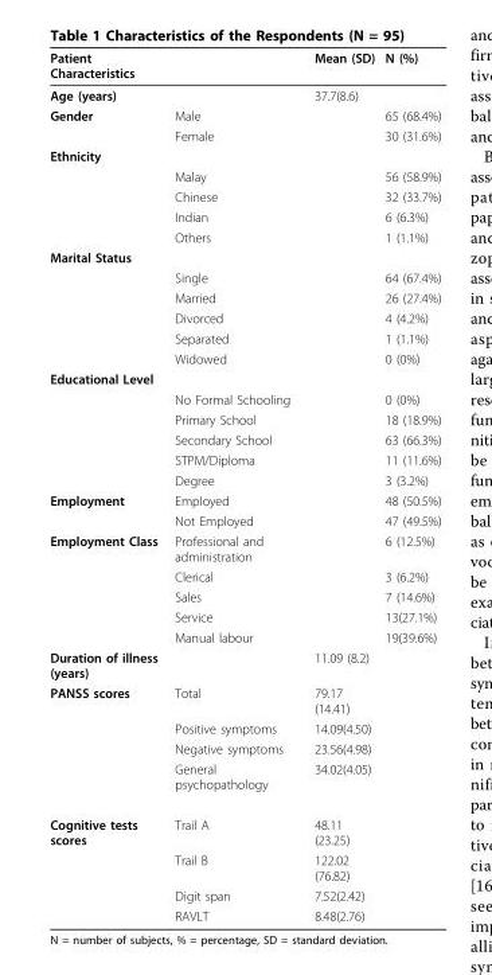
<table><thead><tr><td>Patient Characteristics</td><td></td><td>Mean (SD)</td><td>N (%)</td></tr></thead><tbody><tr><td>Age (years)</td><td></td><td>37.7(8.6)</td><td></td></tr><tr><td rowspan="2">Gender</td><td>Male</td><td></td><td>65 (68.4%)</td></tr><tr><td>Female</td><td></td><td>30 (31.6%)</td></tr><tr><td colspan="4">Ethnicity</td></tr><tr><td></td><td>Malay</td><td></td><td>56 (58.9%)</td></tr><tr><td></td><td>Chinese</td><td></td><td>32 (33.7%)</td></tr><tr><td></td><td>Indian</td><td></td><td>6 (6.3%)</td></tr><tr><td></td><td>Others</td><td></td><td>1 (1.1%)</td></tr><tr><td colspan="4">Marital Status</td></tr><tr><td></td><td>Single</td><td></td><td>64 (67.4%)</td></tr><tr><td></td><td>Married</td><td></td><td>26 (27.4%)</td></tr><tr><td></td><td>Divorced</td><td></td><td>4 (4.2%)</td></tr><tr><td></td><td>Separated</td><td></td><td>1 (1.1%)</td></tr><tr><td></td><td>Widowed</td><td></td><td>0 (0%)</td></tr><tr><td colspan="4">Educational Level</td></tr><tr><td></td><td>No Formal Schooling</td><td></td><td>0 (0%)</td></tr><tr><td></td><td>Primary School</td><td></td><td>18 (18.9%)</td></tr><tr><td></td><td>Secondary School</td><td></td><td>63 (66.3%)</td></tr><tr><td></td><td>STPM/Diploma</td><td></td><td>11 (11.6%)</td></tr><tr><td></td><td>Degree</td><td></td><td>3 (3.2%)</td></tr><tr><td rowspan="2">Employment</td><td>Employed</td><td></td><td>48 (50.5%)</td></tr><tr><td>Not Employed</td><td></td><td>47 (49.5%)</td></tr><tr><td rowspan="5">Employment Class</td><td>Professional and administration</td><td></td><td>6 (12.5%)</td></tr><tr><td>Clerical</td><td></td><td>3 (6.2%)</td></tr><tr><td>Sales</td><td></td><td>7 (14.6%)</td></tr><tr><td>Service</td><td></td><td>13(27.1%)</td></tr><tr><td>Manual labour</td><td></td><td>19(39.6%)</td></tr><tr><td>Duration of illness (years)</td><td></td><td>11.09 (8.2)</td><td></td></tr><tr><td rowspan="4">PANSS scores</td><td>Total</td><td>79.17 (14.41)</td><td></td></tr><tr><td>Positive symptoms</td><td>14.09(4.50)</td><td></td></tr><tr><td>Negative symptoms</td><td>23.56(4.98)</td><td></td></tr><tr><td>General psychopathology</td><td>34.02(4.05)</td><td></td></tr><tr><td rowspan="4">Cognitive tests scores</td><td>Trail A</td><td>48.11 (23.25)</td><td></td></tr><tr><td>Trail B</td><td>122.02 (76.82)</td><td></td></tr><tr><td>Digit span</td><td>7.52(2.42)</td><td></td></tr><tr><td>RAVLT</td><td>8.48(2.76)</td><td></td></tr></tbody></table>